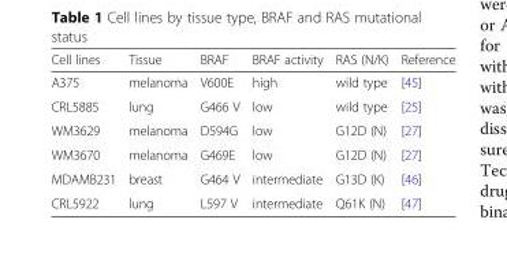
<table><thead><tr><td>Cell lines</td><td>Tissue</td><td>BRAF</td><td>BRAF activity</td><td>RAS (N/K)</td><td>Reference</td></tr></thead><tbody><tr><td>A375</td><td>melanoma</td><td>V600E</td><td>high</td><td>wild type</td><td>[45]</td></tr><tr><td>CRL5885</td><td>lung</td><td>G466 V</td><td>low</td><td>wild type</td><td>[25]</td></tr><tr><td>WM3629</td><td>melanoma</td><td>D594G</td><td>low</td><td>G12D (N)</td><td>[27]</td></tr><tr><td>WM3670</td><td>melanoma</td><td>G469E</td><td>low</td><td>G12D (N)</td><td>[27]</td></tr><tr><td>MDAMB231</td><td>breast</td><td>G464 V</td><td>intermediate</td><td>G13D (K)</td><td>[46]</td></tr><tr><td>CRL5922</td><td>lung</td><td>L597 V</td><td>intermediate</td><td>Q61K (N)</td><td>[47]</td></tr></tbody></table>